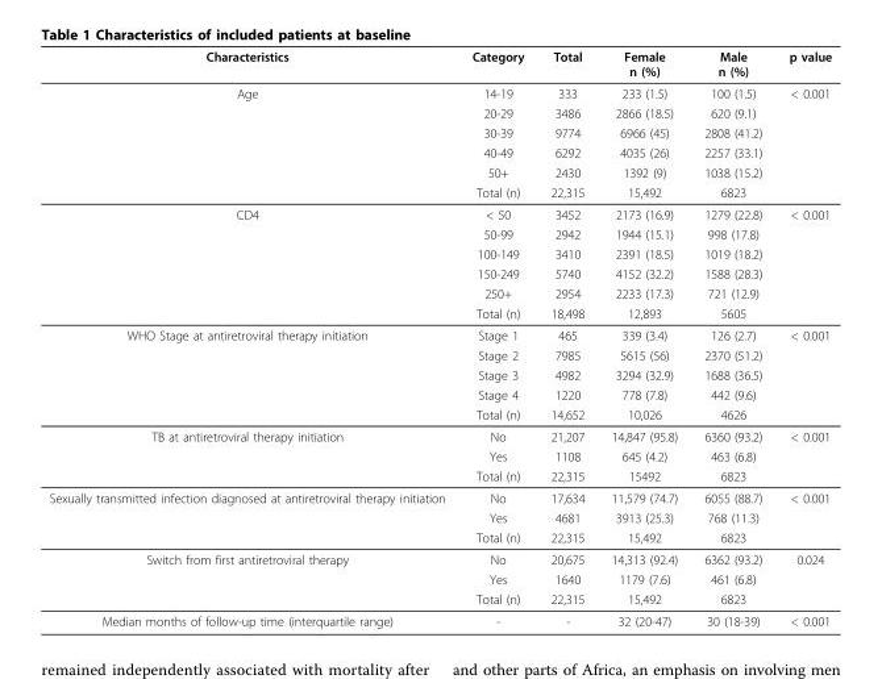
<table><thead><tr><td>Characteristics</td><td>Category</td><td>Total</td><td>Female n (%)</td><td>Male n (%)</td><td>p value</td></tr></thead><tbody><tr><td rowspan="6">Age</td><td>14-19</td><td>333</td><td>233 (1.5)</td><td>100 (1.5)</td><td>&lt; 0.001</td></tr><tr><td>20-29</td><td>3486</td><td>2866 (18.5)</td><td>620 (9.1)</td><td></td></tr><tr><td>30-39</td><td>9774</td><td>6966 (45)</td><td>2808 (41.2)</td><td></td></tr><tr><td>40-49</td><td>6292</td><td>4035 (26)</td><td>2257 (33.1)</td><td></td></tr><tr><td>50+</td><td>2430</td><td>1392 (9)</td><td>1038 (15.2)</td><td></td></tr><tr><td>Total (n)</td><td>22,315</td><td>15,492</td><td>6823</td><td></td></tr><tr><td rowspan="6">CD4</td><td>&lt; 50</td><td>3452</td><td>2173 (16.9)</td><td>1279 (22.8)</td><td>&lt; 0.001</td></tr><tr><td>50-99</td><td>2942</td><td>1944 (15.1)</td><td>998 (17.8)</td><td></td></tr><tr><td>100-149</td><td>3410</td><td>2391 (18.5)</td><td>1019 (18.2)</td><td></td></tr><tr><td>150-249</td><td>5740</td><td>4152 (32.2)</td><td>1588 (28.3)</td><td></td></tr><tr><td>250+</td><td>2954</td><td>2233 (17.3)</td><td>721 (12.9)</td><td></td></tr><tr><td>Total (n)</td><td>18,498</td><td>12,893</td><td>5605</td><td></td></tr><tr><td rowspan="5">WHO Stage at antiretroviral therapy initiation</td><td>Stage 1</td><td>465</td><td>339 (3.4)</td><td>126 (2.7)</td><td>&lt; 0.001</td></tr><tr><td>Stage 2</td><td>7985</td><td>5615 (56)</td><td>2370 (51.2)</td><td></td></tr><tr><td>Stage 3</td><td>4982</td><td>3294 (32.9)</td><td>1688 (36.5)</td><td></td></tr><tr><td>Stage 4</td><td>1220</td><td>778 (7.8)</td><td>442 (9.6)</td><td></td></tr><tr><td>Total (n)</td><td>14,652</td><td>10,026</td><td>4626</td><td></td></tr><tr><td rowspan="3">TB at antiretroviral therapy initiation</td><td>No</td><td>21,207</td><td>14,847 (95.8)</td><td>6360 (93.2)</td><td>&lt; 0.001</td></tr><tr><td>Yes</td><td>1108</td><td>645 (4.2)</td><td>463 (6.8)</td><td></td></tr><tr><td>Total (n)</td><td>22,315</td><td>15492</td><td>6823</td><td></td></tr><tr><td rowspan="3">Sexually transmitted infection diagnosed at antiretroviral therapy initiation</td><td>No</td><td>17,634</td><td>11,579 (74.7)</td><td>6055 (88.7)</td><td>&lt; 0.001</td></tr><tr><td>Yes</td><td>4681</td><td>3913 (25.3)</td><td>768 (11.3)</td><td></td></tr><tr><td>Total (n)</td><td>22,315</td><td>15,492</td><td>6823</td><td></td></tr><tr><td rowspan="3">Switch from first antiretroviral therapy</td><td>No</td><td>20,675</td><td>14,313 (92.4)</td><td>6362 (93.2)</td><td>0.024</td></tr><tr><td>Yes</td><td>1640</td><td>1179 (7.6)</td><td>461 (6.8)</td><td></td></tr><tr><td>Total (n)</td><td>22,315</td><td>15,492</td><td>6823</td><td></td></tr><tr><td>Median months of follow-up time (interquartile range)</td><td>-</td><td>-</td><td>32 (20-47)</td><td>30 (18-39)</td><td>&lt; 0.001</td></tr></tbody></table>